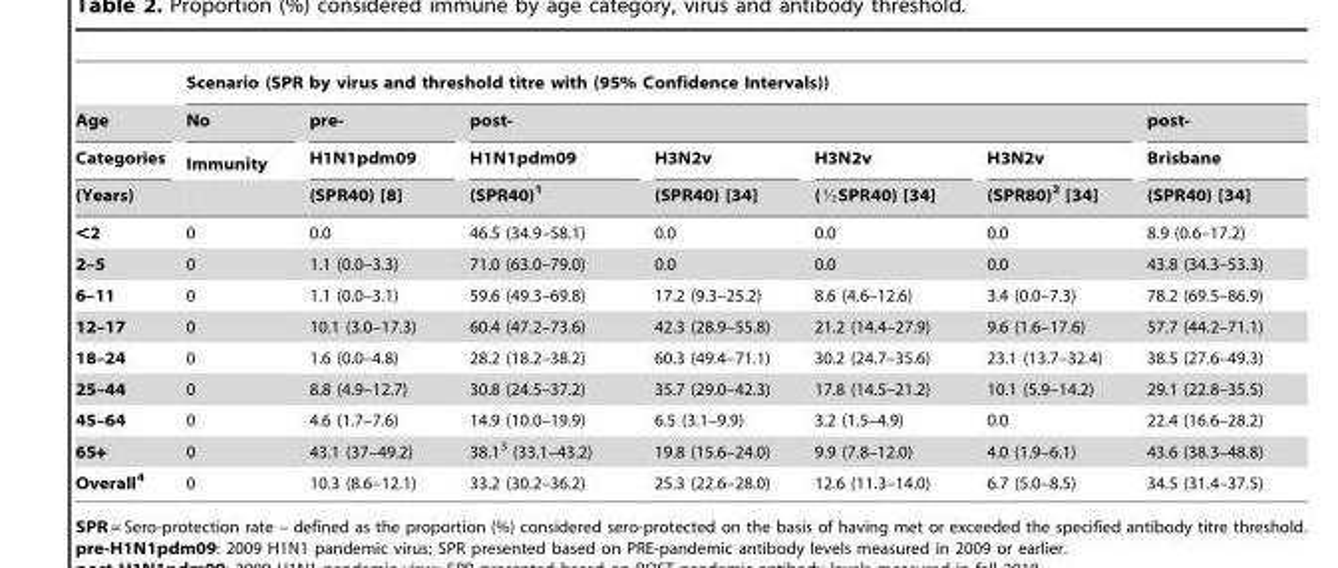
<table><thead><tr><td rowspan="4">Age Categories (Years)</td><td colspan="7">Scenario (SPR by virus and threshold titre with (95% Confidence Intervals))</td></tr><tr><td rowspan="3">No Immunity</td><td rowspan="3">pre- H1N1pdm09 (SPR40) [8]</td><td colspan="4">post-</td><td rowspan="3">post- Brisbane (SPR40) [34]</td></tr><tr><td rowspan="2">H1N1pdm09 (SPR40)<sup>1</sup></td><td rowspan="2">H3N2v (SPR40) [34]</td><td rowspan="2">H3N2v (KSPR40) [34]</td><td rowspan="2">H3N2v (SPR80)<sup>2</sup> [34]</td></tr><tr></tr></thead><tbody><tr><td>&lt;2</td><td>0</td><td>0.0</td><td>46.5 (34.9–58.1)</td><td>0.0</td><td>0.0</td><td>0.0</td><td>8.9 (0.6–17.2)</td></tr><tr><td>2–5</td><td>0</td><td>1.1 (0.0–3.3)</td><td>71.0 (63.0–79.0)</td><td>0.0</td><td>0.0</td><td>0.0</td><td>43.8 (34.3–53.3)</td></tr><tr><td>6–11</td><td>0</td><td>1.1 (0.0–3.1)</td><td>59.6 (49.3–69.8)</td><td>17.2 (9.3–25.2)</td><td>8.6 (4.6–12.6)</td><td>3.4 (0.0–7.3)</td><td>78.2 (69.5–86.9)</td></tr><tr><td>12–17</td><td>0</td><td>10.1 (3.0–17.3)</td><td>60.4 (47.2–73.6)</td><td>42.3 (28.9–55.8)</td><td>21.2 (14.4–27.9)</td><td>9.6 (1.6–17.6)</td><td>57.7 (44.2–71.1)</td></tr><tr><td>18–24</td><td>0</td><td>1.6 (0.0–4.8)</td><td>28.2 (18.2–38.2)</td><td>60.3 (49.4–71.1)</td><td>30.2 (24.7–35.6)</td><td>23.1 (13.7–32.4)</td><td>38.5 (27.6–49.3)</td></tr><tr><td>25–44</td><td>0</td><td>8.8 (4.9–12.7)</td><td>30.8 (24.5–37.2)</td><td>35.7 (29.0–42.3)</td><td>17.8 (14.5–21.2)</td><td>10.1 (5.9–14.2)</td><td>29.1 (22.8–35.5)</td></tr><tr><td>45–64</td><td>0</td><td>4.6 (1.7–7.6)</td><td>14.9 (10.0–19.9)</td><td>6.5 (3.1–9.9)</td><td>3.2 (1.5–4.9)</td><td>0.0</td><td>22.4 (16.6–28.2)</td></tr><tr><td>65+</td><td>0</td><td>43.1 (37–49.2)</td><td>38.1<sup>3</sup> (33.1–43.2)</td><td>19.8 (15.6–24.0)</td><td>9.9 (7.8–12.0)</td><td>4.0 (1.9–6.1)</td><td>43.6 (38.3–48.8)</td></tr><tr><td>Overall4</td><td>0</td><td>10.3 (8.6–12.1)</td><td>33.2 (30.2–36.2)</td><td>25.3 (22.6–28.0)</td><td>12.6 (11.3–14.0)</td><td>6.7 (5.0–8.5)</td><td>34.5 (31.4–37.5)</td></tr></tbody></table>